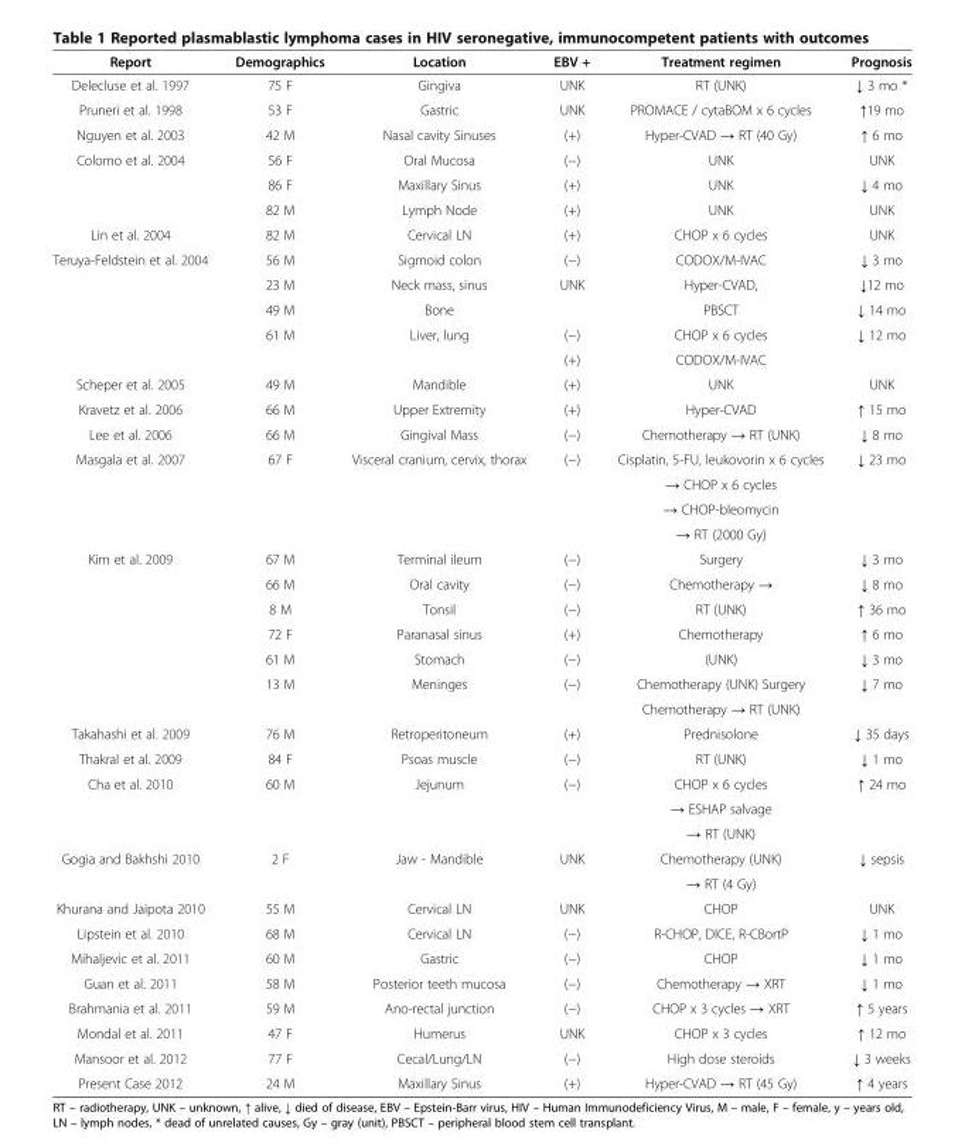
<table><thead><tr><td>Report</td><td>Demographics</td><td>Location</td><td>EBV +</td><td>Treatment regimen</td><td>Prognosis</td></tr></thead><tbody><tr><td>Delecluse et al. 1997</td><td>75 F</td><td>Gingiva</td><td>UNK</td><td>RT (UNK)</td><td>↓ 3 mo *</td></tr><tr><td>Pruneri et al. 1998</td><td>53 F</td><td>Gastric</td><td>UNK</td><td>PROMACE / cytaBOM x 6 cycles</td><td>↑19 mo</td></tr><tr><td>Nguyen et al. 2003</td><td>42 M</td><td>Nasal cavity Sinuses</td><td>(+)</td><td>Hyper-CVAD → RT (40 Gy)</td><td>↑ 6 mo</td></tr><tr><td rowspan="3">Colomo et al. 2004</td><td>56 F</td><td>Oral Mucosa</td><td>(−)</td><td>UNK</td><td>UNK</td></tr><tr><td>86 F</td><td>Maxillary Sinus</td><td>(+)</td><td>UNK</td><td>↓ 4 mo</td></tr><tr><td>82 M</td><td>Lymph Node</td><td>(+)</td><td>UNK</td><td>UNK</td></tr><tr><td>Lin et al. 2004</td><td>82 M</td><td>Cervical LN</td><td>(+)</td><td>CHOP x 6 cycles</td><td>UNK</td></tr><tr><td rowspan="5">Teruya-Feldstein et al. 2004</td><td>56 M</td><td>Sigmoid colon</td><td>(−)</td><td>CODOX/M-IVAC</td><td>↓ 3 mo</td></tr><tr><td>23 M</td><td>Neck mass, sinus</td><td>UNK</td><td>Hyper-CVAD,</td><td>↓12 mo</td></tr><tr><td>49 M</td><td>Bone</td><td></td><td>PBSCT</td><td>↓ 14 mo</td></tr><tr><td rowspan="2">61 M</td><td rowspan="2">Liver, lung</td><td>(−)</td><td>CHOP x 6 cycles</td><td rowspan="2">↓ 12 mo</td></tr><tr><td>(+)</td><td>CODOX/M-IVAC</td></tr><tr><td>Scheper et al. 2005</td><td>49 M</td><td>Mandible</td><td>(+)</td><td>UNK</td><td>UNK</td></tr><tr><td>Kravetz et al. 2006</td><td>66 M</td><td>Upper Extremity</td><td>(+)</td><td>Hyper-CVAD</td><td>↑ 15 mo</td></tr><tr><td>Lee et al. 2006</td><td>66 M</td><td>Gingival Mass</td><td>(−)</td><td>Chemotherapy → RT (UNK)</td><td>↓ 8 mo</td></tr><tr><td rowspan="4">Masgala et al. 2007</td><td rowspan="4">67 F</td><td rowspan="4">Visceral cranium, cervix, thorax</td><td rowspan="4">(−)</td><td>Cisplatin, 5-FU, leukovorin x 6 cycles</td><td rowspan="4">↓ 23 mo</td></tr><tr><td>→ CHOP x 6 cycles</td></tr><tr><td>→ CHOP-bleomycin</td></tr><tr><td>→ RT (2000 Gy)</td></tr><tr><td rowspan="7">Kim et al. 2009</td><td>67 M</td><td>Terminal ileum</td><td>(−)</td><td>Surgery</td><td>↓ 3 mo</td></tr><tr><td>66 M</td><td>Oral cavity</td><td>(−)</td><td>Chemotherapy →</td><td>↓ 8 mo</td></tr><tr><td>8 M</td><td>Tonsil</td><td>(−)</td><td>RT (UNK)</td><td>↑ 36 mo</td></tr><tr><td>72 F</td><td>Paranasal sinus</td><td>(+)</td><td>Chemotherapy</td><td>↑ 6 mo</td></tr><tr><td>61 M</td><td>Stomach</td><td>(−)</td><td>(UNK)</td><td>↓ 3 mo</td></tr><tr><td rowspan="2">13 M</td><td rowspan="2">Meninges</td><td rowspan="2">(−)</td><td>Chemotherapy (UNK) Surgery</td><td rowspan="2">↓ 7 mo</td></tr><tr><td>Chemotherapy → RT (UNK)</td></tr><tr><td>Takahashi et al. 2009</td><td>76 M</td><td>Retroperitoneum</td><td>(+)</td><td>Prednisolone</td><td>↓ 35 days</td></tr><tr><td>Thakral et al. 2009</td><td>84 F</td><td>Psoas muscle</td><td>(−)</td><td>RT (UNK)</td><td>↓ 1 mo</td></tr><tr><td rowspan="3">Cha et al. 2010</td><td rowspan="3">60 M</td><td rowspan="3">Jejunum</td><td rowspan="3">(−)</td><td>CHOP x 6 cycles</td><td rowspan="3">↑ 24 mo</td></tr><tr><td>→ ESHAP salvage</td></tr><tr><td>→ RT (UNK)</td></tr><tr><td rowspan="2">Gogia and Bakhshi 2010</td><td rowspan="2">2 F</td><td rowspan="2">Jaw - Mandible</td><td rowspan="2">UNK</td><td>Chemotherapy (UNK)</td><td rowspan="2">↓ sepsis</td></tr><tr><td>→ RT (4 Gy)</td></tr><tr><td>Khurana and Jaipota 2010</td><td>55 M</td><td>Cervical LN</td><td>UNK</td><td>CHOP</td><td>UNK</td></tr><tr><td>Lipstein et al. 2010</td><td>68 M</td><td>Cervical LN</td><td>(−)</td><td>R-CHOP, DICE, R-CBortP</td><td>↓ 1 mo</td></tr><tr><td>Mihaljevic et al. 2011</td><td>60 M</td><td>Gastric</td><td>(−)</td><td>CHOP</td><td>↓ 1 mo</td></tr><tr><td>Guan et al. 2011</td><td>58 M</td><td>Posterior teeth mucosa</td><td>(−)</td><td>Chemotherapy → XRT</td><td>↓ 1 mo</td></tr><tr><td>Brahmania et al. 2011</td><td>59 M</td><td>Ano-rectal junction</td><td>(−)</td><td>CHOP x 3 cycles → XRT</td><td>↑ 5 years</td></tr><tr><td>Mondal et al. 2011</td><td>47 F</td><td>Humerus</td><td>UNK</td><td>CHOP x 3 cycles</td><td>↑ 12 mo</td></tr><tr><td>Mansoor et al. 2012</td><td>77 F</td><td>Cecal/Lung/LN</td><td>(−)</td><td>High dose steroids</td><td>↓ 3 weeks</td></tr><tr><td>Present Case 2012</td><td>24 M</td><td>Maxillary Sinus</td><td>(+)</td><td>Hyper-CVAD → RT (45 Gy)</td><td>↑ 4 years</td></tr></tbody></table>